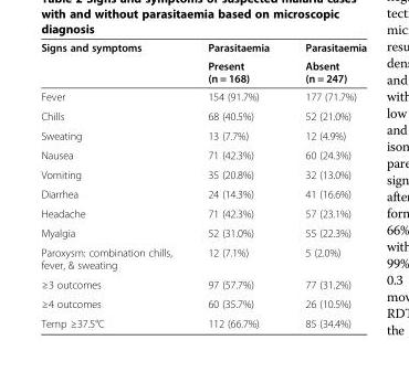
<table><thead><tr><td rowspan="2">Signs and symptoms</td><td rowspan="2">Parasitaemia Present (n = 168)</td><td rowspan="2">Parasitaemia Absent (n = 247)</td></tr><tr></tr></thead><tbody><tr><td>Fever</td><td>154 (91.7%)</td><td>177 (71.7%)</td></tr><tr><td>Chills</td><td>68 (40.5%)</td><td>52 (21.0%)</td></tr><tr><td>Sweating</td><td>13 (7.7%)</td><td>12 (4.9%)</td></tr><tr><td>Nausea</td><td>71 (42.3%)</td><td>60 (24.3%)</td></tr><tr><td>Vomiting</td><td>35 (20.8%)</td><td>32 (13.0%)</td></tr><tr><td>Diarrhea</td><td>24 (14.3%)</td><td>41 (16.6%)</td></tr><tr><td>Headache</td><td>71 (42.3%)</td><td>57 (23.1%)</td></tr><tr><td>Myalgia</td><td>52 (31.0%)</td><td>55 (22.3%)</td></tr><tr><td>Paroxysm: combination chills, fever, &amp; sweating</td><td>12 (7.1%)</td><td>5 (2.0%)</td></tr><tr><td>≥3 outcomes</td><td>97 (57.7%)</td><td>77 (31.2%)</td></tr><tr><td>≥4 outcomes</td><td>60 (35.7%)</td><td>26 (10.5%)</td></tr><tr><td>Temp ≥37.5°C</td><td>112 (66.7%)</td><td>85 (34.4%)</td></tr></tbody></table>